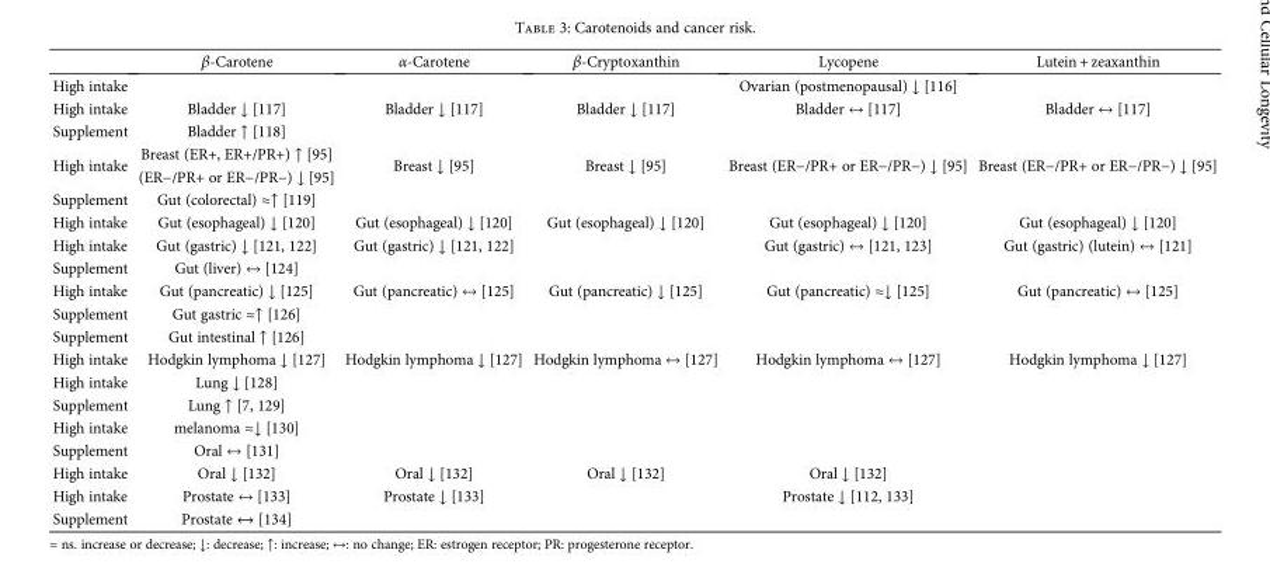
<table><thead><tr><td></td><td>β-Carotene</td><td>α-Carotene</td><td>β-Cryptoxanthin</td><td>Lycopene</td><td>Lutein + zeaxanthin</td></tr></thead><tbody><tr><td>High intake</td><td></td><td></td><td></td><td>Ovarian (postmenopausal) ↓ [116]</td><td></td></tr><tr><td>High intake</td><td>Bladder ↓ [117]</td><td>Bladder ↓ [117]</td><td>Bladder ↓ [117]</td><td>Bladder ↔ [117]</td><td>Bladder ↔ [117]</td></tr><tr><td>Supplement</td><td>Bladder ↑ [118]</td><td></td><td></td><td></td><td></td></tr><tr><td rowspan="2">High intake</td><td>Breast (ER+, ER+/PR+) ↑ [95]</td><td rowspan="2">Breast ↓ [95]</td><td rowspan="2">Breast ↓ [95]</td><td rowspan="2">Breast (ER−/PR+ or ER−/PR−) ↓ [95]</td><td rowspan="2">Breast (ER−/PR+ or ER−/PR−) ↓ [95]</td></tr><tr><td>(ER−/PR+ or ER−/PR−) ↓ [95]</td></tr><tr><td>Supplement</td><td>Gut (colorectal) ≈↑ [119]</td><td></td><td></td><td></td><td></td></tr><tr><td>High intake</td><td>Gut (esophageal) ↓ [120]</td><td>Gut (esophageal) ↓ [120]</td><td>Gut (esophageal) ↓ [120]</td><td>Gut (esophageal) ↓ [120]</td><td>Gut (esophageal) ↓ [120]</td></tr><tr><td>High intake</td><td>Gut (gastric) ↓ [121, 122]</td><td>Gut (gastric) ↓ [121, 122]</td><td></td><td>Gut (gastric) ↔ [121, 123]</td><td>Gut (gastric) (lutein) ↔ [121]</td></tr><tr><td>Supplement</td><td>Gut (liver) ↔ [124]</td><td></td><td></td><td></td><td></td></tr><tr><td>High intake</td><td>Gut (pancreatic) ↓ [125]</td><td>Gut (pancreatic) ↔ [125]</td><td>Gut (pancreatic) ↓ [125]</td><td>Gut (pancreatic) ≈↓ [125]</td><td>Gut (pancreatic) ↔ [125]</td></tr><tr><td>Supplement</td><td>Gut gastric ≈↑ [126]</td><td></td><td></td><td></td><td></td></tr><tr><td>Supplement</td><td>Gut intestinal ↑ [126]</td><td></td><td></td><td></td><td></td></tr><tr><td>High intake</td><td>Hodgkin lymphoma ↓ [127]</td><td>Hodgkin lymphoma ↓ [127]</td><td>Hodgkin lymphoma ↔ [127]</td><td>Hodgkin lymphoma ↔ [127]</td><td>Hodgkin lymphoma ↓ [127]</td></tr><tr><td>High intake</td><td>Lung ↓ [128]</td><td></td><td></td><td></td><td></td></tr><tr><td>Supplement</td><td>Lung ↑ [7, 129]</td><td></td><td></td><td></td><td></td></tr><tr><td>High intake</td><td>melanoma ≈↓ [130]</td><td></td><td></td><td></td><td></td></tr><tr><td>Supplement</td><td>Oral ↔ [131]</td><td></td><td></td><td></td><td></td></tr><tr><td>High intake</td><td>Oral ↓ [132]</td><td>Oral ↓ [132]</td><td>Oral ↓ [132]</td><td>Oral ↓ [132]</td><td></td></tr><tr><td>High intake</td><td>Prostate ↔ [133]</td><td>Prostate ↓ [133]</td><td></td><td>Prostate ↓ [112, 133]</td><td></td></tr><tr><td>Supplement</td><td>Prostate ↔ [134]</td><td></td><td></td><td></td><td></td></tr></tbody></table>